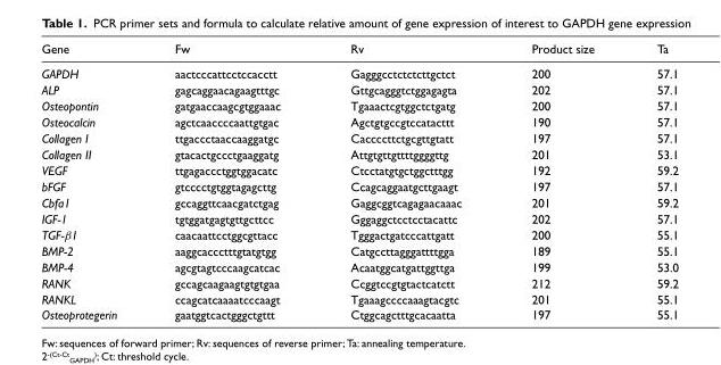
<table><thead><tr><td>Gene</td><td>Fw</td><td>Rv</td><td>Product size</td><td>Ta</td></tr></thead><tbody><tr><td>GAPDH</td><td>aactcccattcctccacctt</td><td>Gagggcctctctcttgctct</td><td>200</td><td>57.1</td></tr><tr><td>ALP</td><td>gagcaggaacagaagtttgc</td><td>Gttgcagggtctggagagta</td><td>202</td><td>57.1</td></tr><tr><td>Osteopontin</td><td>gatgaaccaagcgtggaaac</td><td>Tgaaactcgtggctctgatg</td><td>200</td><td>57.1</td></tr><tr><td>Osteocalcin</td><td>agctcaaccccaattgtgac</td><td>Agctgtgccgtccatacttt</td><td>190</td><td>57.1</td></tr><tr><td>Collagen I</td><td>ttgaccctaaccaaggatgc</td><td>Caccccttctgcgttgtatt</td><td>197</td><td>57.1</td></tr><tr><td>Collagen II</td><td>gtacactgccctgaaggatg</td><td>Attgtgttgttttggggttg</td><td>201</td><td>53.1</td></tr><tr><td>VEGF</td><td>ttgagaccctggtggacatc</td><td>Ctcctatgtgctggctttgg</td><td>192</td><td>59.2</td></tr><tr><td>bFGF</td><td>gtcccctgtggtagagcttg</td><td>Ccagcaggaatgcttgaagt</td><td>197</td><td>57.1</td></tr><tr><td>Cbfa1</td><td>gccaggttcaacgatctgag</td><td>Gaggcggtcagagaacaaac</td><td>201</td><td>59.2</td></tr><tr><td>IGF-1</td><td>tgtggatgagtgttgcttcc</td><td>Gggaggctcctcctacattc</td><td>202</td><td>57.1</td></tr><tr><td>TGF-β1</td><td>caacaattcctggcgttacc</td><td>Tgggactgatcccattgatt</td><td>200</td><td>55.1</td></tr><tr><td>BMP-2</td><td>aaggcaccctttgtatgtgg</td><td>Catgccttagggattttgga</td><td>189</td><td>55.1</td></tr><tr><td>BMP-4</td><td>agcgtagtcccaagcatcac</td><td>Acaatggcatgattggttga</td><td>199</td><td>53.0</td></tr><tr><td>RANK</td><td>gccagcaagaagtgtgtgaa</td><td>Ccggtccgtgtactcatctt</td><td>212</td><td>59.2</td></tr><tr><td>RANKL</td><td>ccagcatcaaaatcccaagt</td><td>Tgaaagccccaaagtacgtc</td><td>201</td><td>55.1</td></tr><tr><td>Osteoprotegerin</td><td>gaatggtcactgggctgttt</td><td>Ctggcagctttgcacaatta</td><td>197</td><td>55.1</td></tr></tbody></table>